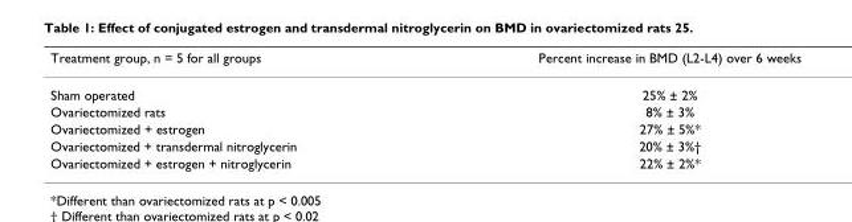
<table><thead><tr><td>Treatment group, n = 5 for all groups</td><td>Percent increase in BMD (L2-L4) over 6 weeks</td></tr></thead><tbody><tr><td>Sham operated</td><td>25% ± 2%</td></tr><tr><td>Ovariectomized rats</td><td>8% ± 3%</td></tr><tr><td>Ovariectomized + estrogen</td><td>27% ± 5%*</td></tr><tr><td>Ovariectomized + transdermal nitroglycerin</td><td>20% ± 3%†</td></tr><tr><td>Ovariectomized + estrogen + nitroglycerin</td><td>22% ± 2%*</td></tr></tbody></table>